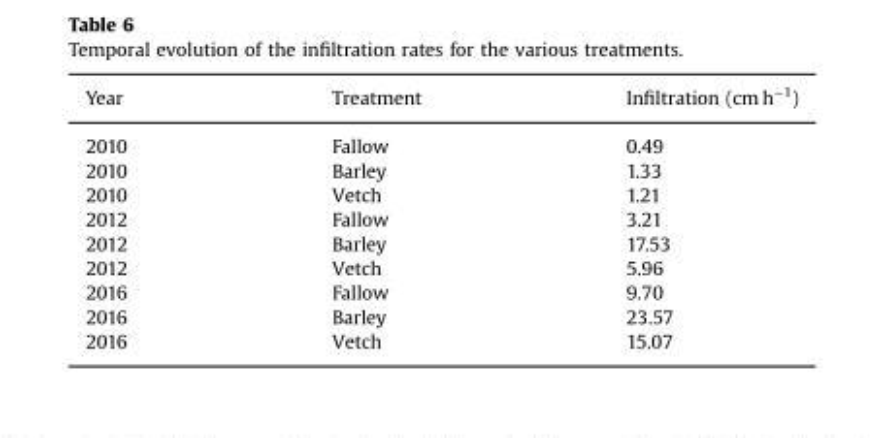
<table><thead><tr><td>Year</td><td>Treatment</td><td>Infiltration (cm h<sup>−1</sup>)</td></tr></thead><tbody><tr><td>2010</td><td>Fallow</td><td>0.49</td></tr><tr><td>2010</td><td>Barley</td><td>1.33</td></tr><tr><td>2010</td><td>Vetch</td><td>1.21</td></tr><tr><td>2012</td><td>Fallow</td><td>3.21</td></tr><tr><td>2012</td><td>Barley</td><td>17.53</td></tr><tr><td>2012</td><td>Vetch</td><td>5.96</td></tr><tr><td>2016</td><td>Fallow</td><td>9.70</td></tr><tr><td>2016</td><td>Barley</td><td>23.57</td></tr><tr><td>2016</td><td>Vetch</td><td>15.07</td></tr></tbody></table>